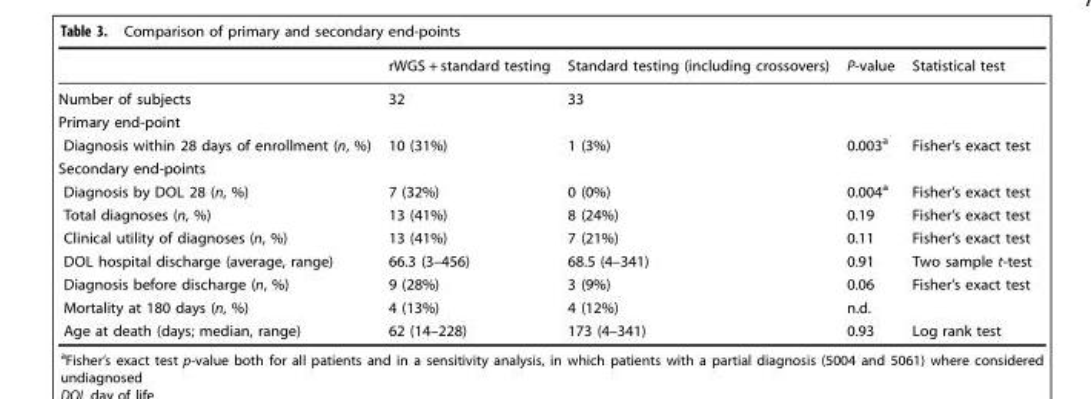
<table><thead><tr><td></td><td>rWGS + standard testing</td><td>Standard testing (including crossovers)</td><td>P-value</td><td>Statistical test</td></tr></thead><tbody><tr><td>Number of subjects</td><td>32</td><td>33</td><td></td><td></td></tr><tr><td colspan="5">Primary end-point</td></tr><tr><td>Diagnosis within 28 days of enrollment (n, %)</td><td>10 (31%)</td><td>1 (3%)</td><td>0.003<sup>a</sup></td><td>Fisher’s exact test</td></tr><tr><td colspan="5">Secondary end-points</td></tr><tr><td>Diagnosis by DOL 28 (n, %)</td><td>7 (32%)</td><td>0 (0%)</td><td>0.004<sup>a</sup></td><td>Fisher’s exact test</td></tr><tr><td>Total diagnoses (n, %)</td><td>13 (41%)</td><td>8 (24%)</td><td>0.19</td><td>Fisher’s exact test</td></tr><tr><td>Clinical utility of diagnoses (n, %)</td><td>13 (41%)</td><td>7 (21%)</td><td>0.11</td><td>Fisher’s exact test</td></tr><tr><td>DOL hospital discharge (average, range)</td><td>66.3 (3–456)</td><td>68.5 (4–341)</td><td>0.91</td><td>Two sample t-test</td></tr><tr><td>Diagnosis before discharge (n, %)</td><td>9 (28%)</td><td>3 (9%)</td><td>0.06</td><td>Fisher’s exact test</td></tr><tr><td>Mortality at 180 days (n, %)</td><td>4 (13%)</td><td>4 (12%)</td><td>n.d.</td><td></td></tr><tr><td>Age at death (days; median, range)</td><td>62 (14–228)</td><td>173 (4–341)</td><td>0.93</td><td>Log rank test</td></tr></tbody></table>